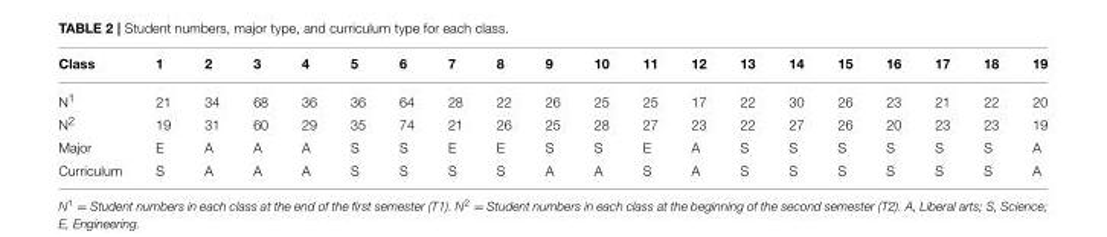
<table><thead><tr><td>Class</td><td>1</td><td>2</td><td>3</td><td>4</td><td>5</td><td>6</td><td>7</td><td>8</td><td>9</td><td>10</td><td>11</td><td>12</td><td>13</td><td>14</td><td>15</td><td>16</td><td>17</td><td>18</td><td>19</td></tr></thead><tbody><tr><td>N<sup>1</sup></td><td>21</td><td>34</td><td>68</td><td>36</td><td>36</td><td>64</td><td>28</td><td>22</td><td>26</td><td>25</td><td>25</td><td>17</td><td>22</td><td>30</td><td>26</td><td>23</td><td>21</td><td>22</td><td>20</td></tr><tr><td>N<sup>2</sup></td><td>19</td><td>31</td><td>60</td><td>29</td><td>35</td><td>74</td><td>21</td><td>26</td><td>25</td><td>28</td><td>27</td><td>23</td><td>22</td><td>27</td><td>26</td><td>20</td><td>23</td><td>23</td><td>19</td></tr><tr><td>Major</td><td>E</td><td>A</td><td>A</td><td>A</td><td>S</td><td>S</td><td>E</td><td>E</td><td>S</td><td>S</td><td>E</td><td>A</td><td>S</td><td>S</td><td>S</td><td>S</td><td>S</td><td>S</td><td>A</td></tr><tr><td>Curriculum</td><td>S</td><td>A</td><td>A</td><td>A</td><td>S</td><td>S</td><td>S</td><td>S</td><td>A</td><td>A</td><td>S</td><td>A</td><td>S</td><td>S</td><td>S</td><td>S</td><td>S</td><td>S</td><td>A</td></tr></tbody></table>